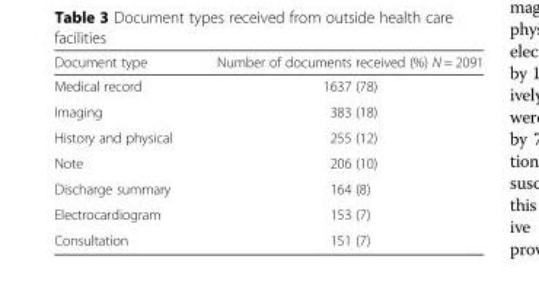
<table><thead><tr><td>Document type</td><td>Number of documents received (%) N = 2091</td></tr></thead><tbody><tr><td>Medical record</td><td>1637 (78)</td></tr><tr><td>Imaging</td><td>383 (18)</td></tr><tr><td>History and physical</td><td>255 (12)</td></tr><tr><td>Note</td><td>206 (10)</td></tr><tr><td>Discharge summary</td><td>164 (8)</td></tr><tr><td>Electrocardiogram</td><td>153 (7)</td></tr><tr><td>Consultation</td><td>151 (7)</td></tr></tbody></table>